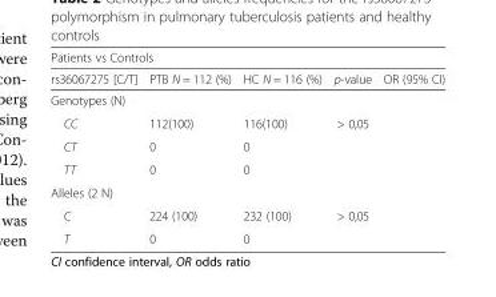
<table><thead><tr><td colspan="5">Patients vs Controls</td></tr><tr><td>rs36067275 [C/T]</td><td>PTB N = 112 (%)</td><td>HC N = 116 (%)</td><td>p-value</td><td>OR (95% CI)</td></tr></thead><tbody><tr><td colspan="5">Genotypes (N)</td></tr><tr><td>CC</td><td>112(100)</td><td>116(100)</td><td>&gt; 0,05</td><td></td></tr><tr><td>CT</td><td>0</td><td>0</td><td></td><td></td></tr><tr><td>TT</td><td>0</td><td>0</td><td></td><td></td></tr><tr><td colspan="5">Alleles (2 N)</td></tr><tr><td>C</td><td>224 (100)</td><td>232 (100)</td><td>&gt; 0,05</td><td></td></tr><tr><td>T</td><td>0</td><td>0</td><td></td><td></td></tr></tbody></table>